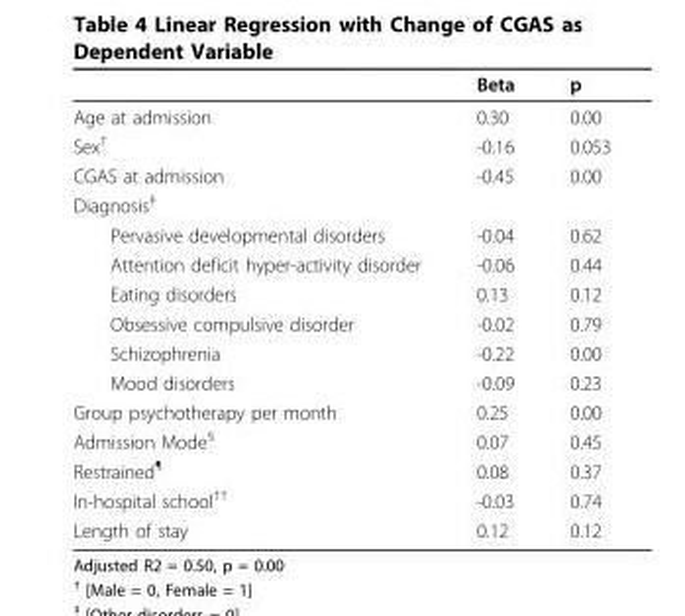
<table><thead><tr><td></td><td>Beta</td><td>p</td></tr></thead><tbody><tr><td>Age at admission</td><td>0.30</td><td>0.00</td></tr><tr><td>Sex<sup>†</sup></td><td>-0.16</td><td>0.053</td></tr><tr><td>CGAS at admission</td><td>-0.45</td><td>0.00</td></tr><tr><td colspan="3">Diagnosis<sup>‡</sup></td></tr><tr><td>Pervasive developmental disorders</td><td>-0.04</td><td>0.62</td></tr><tr><td>Attention deficit hyper-activity disorder</td><td>-0.06</td><td>0.44</td></tr><tr><td>Eating disorders</td><td>0.13</td><td>0.12</td></tr><tr><td>Obsessive compulsive disorder</td><td>-0.02</td><td>0.79</td></tr><tr><td>Schizophrenia</td><td>-0.22</td><td>0.00</td></tr><tr><td>Mood disorders</td><td>-0.09</td><td>0.23</td></tr><tr><td>Group psychotherapy per month</td><td>0.25</td><td>0.00</td></tr><tr><td>Admission Mode<sup>§</sup></td><td>0.07</td><td>0.45</td></tr><tr><td>Restrained<sup>¶</sup></td><td>0.08</td><td>0.37</td></tr><tr><td>In-hospital school<sup>††</sup></td><td>-0.03</td><td>0.74</td></tr><tr><td>Length of stay</td><td>0.12</td><td>0.12</td></tr></tbody></table>